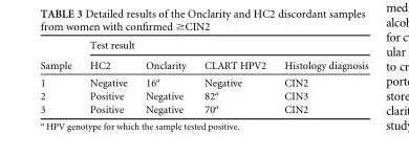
<table><thead><tr><td rowspan="2">Sample</td><td colspan="4">Test result</td></tr><tr><td>HC2</td><td>Onclarity</td><td>CLART HPV2</td><td>Histology diagnosis</td></tr></thead><tbody><tr><td>1</td><td>Negative</td><td>16<sup>a</sup></td><td>Negative</td><td>CIN2</td></tr><tr><td>2</td><td>Positive</td><td>Negative</td><td>82<sup>a</sup></td><td>CIN3</td></tr><tr><td>3</td><td>Positive</td><td>Negative</td><td>70<sup>a</sup></td><td>CIN2</td></tr></tbody></table>